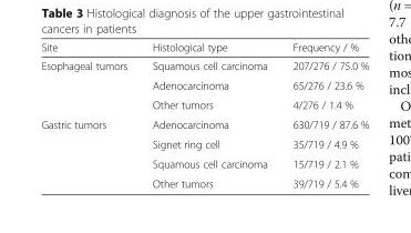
<table><thead><tr><td>Site</td><td>Histological type</td><td>Frequency / %</td></tr></thead><tbody><tr><td rowspan="3">Esophageal tumors</td><td>Squamous cell carcinoma</td><td>207/276 / 75.0 %</td></tr><tr><td>Adenocarcinoma</td><td>65/276 / 23.6 %</td></tr><tr><td>Other tumors</td><td>4/276 / 1.4 %</td></tr><tr><td rowspan="4">Gastric tumors</td><td>Adenocarcinoma</td><td>630/719 / 87.6 %</td></tr><tr><td>Signet ring cell</td><td>35/719 / 4.9 %</td></tr><tr><td>Squamous cell carcinoma</td><td>15/719 / 2.1 %</td></tr><tr><td>Other tumors</td><td>39/719 / 5.4 %</td></tr></tbody></table>